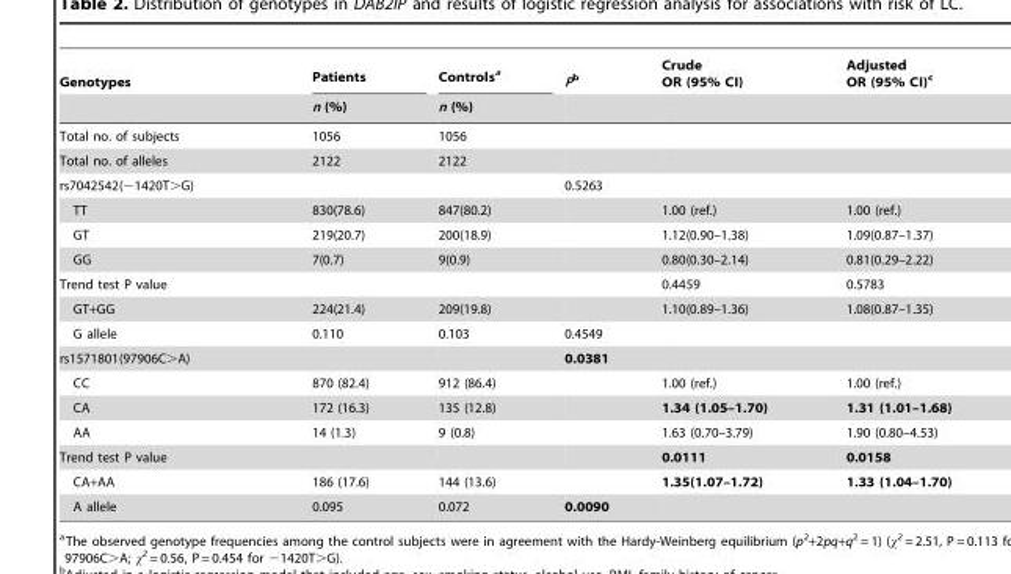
<table><thead><tr><td rowspan="2">Genotypes</td><td rowspan="2">Patients n (%)</td><td rowspan="2">Controls<sup>a</sup> n (%)</td><td rowspan="2">Pb</td><td rowspan="2">Crude OR (95% CI)</td><td rowspan="2">Adjusted OR (95% CI)<sup>c</sup></td></tr><tr></tr></thead><tbody><tr><td>Total no. of subjects</td><td>1056</td><td>1056</td><td></td><td></td><td></td></tr><tr><td>Total no. of alleles</td><td>2122</td><td>2122</td><td></td><td></td><td></td></tr><tr><td>rs7042542(−1420T&gt;G)</td><td></td><td></td><td>0.5263</td><td></td><td></td></tr><tr><td>TT</td><td>830(78.6)</td><td>847(80.2)</td><td></td><td>1.00 (ref.)</td><td>1.00 (ref.)</td></tr><tr><td>GT</td><td>219(20.7)</td><td>200(18.9)</td><td></td><td>1.12(0.90–1.38)</td><td>1.09(0.87–1.37)</td></tr><tr><td>GG</td><td>7(0.7)</td><td>9(0.9)</td><td></td><td>0.80(0.30–2.14)</td><td>0.81(0.29–2.22)</td></tr><tr><td>Trend test P value</td><td></td><td></td><td></td><td>0.4459</td><td>0.5783</td></tr><tr><td>GT+GG</td><td>224(21.4)</td><td>209(19.8)</td><td></td><td>1.10(0.89–1.36)</td><td>1.08(0.87–1.35)</td></tr><tr><td>G allele</td><td>0.110</td><td>0.103</td><td>0.4549</td><td></td><td></td></tr><tr><td>rs1571801(97906C&gt;A)</td><td></td><td></td><td>0.0381</td><td></td><td></td></tr><tr><td>CC</td><td>870 (82.4)</td><td>912 (86.4)</td><td></td><td>1.00 (ref.)</td><td>1.00 (ref.)</td></tr><tr><td>CA</td><td>172 (16.3)</td><td>135 (12.8)</td><td></td><td>1.34 (1.05–1.70)</td><td>1.31 (1.01–1.68)</td></tr><tr><td>AA</td><td>14 (1.3)</td><td>9 (0.8)</td><td></td><td>1.63 (0.70–3.79)</td><td>1.90 (0.80–4.53)</td></tr><tr><td>Trend test P value</td><td></td><td></td><td></td><td>0.0111</td><td>0.0158</td></tr><tr><td>CA+AA</td><td>186 (17.6)</td><td>144 (13.6)</td><td></td><td>1.35(1.07–1.72)</td><td>1.33 (1.04–1.70)</td></tr><tr><td>A allele</td><td>0.095</td><td>0.072</td><td>0.0090</td><td></td><td></td></tr></tbody></table>